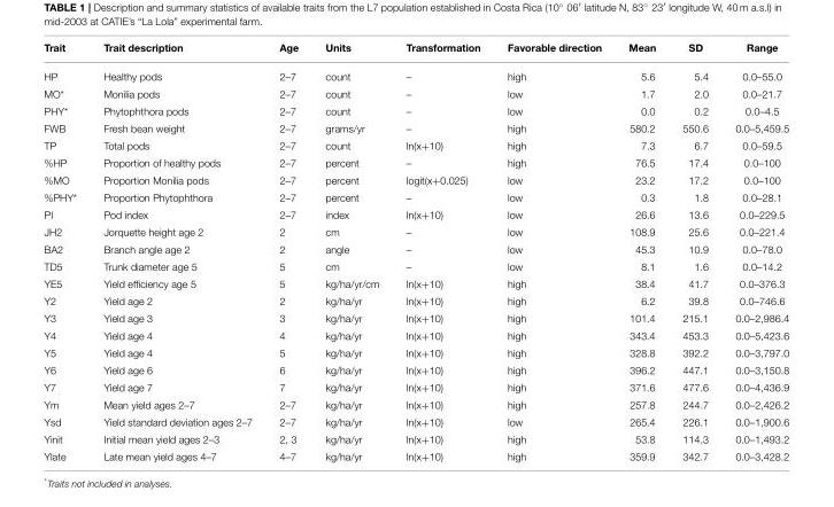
<table><thead><tr><td>Trait</td><td>Trait description</td><td>Age</td><td>Units</td><td>Transformation</td><td>Favorable direction</td><td>Mean</td><td>SD</td><td>Range</td></tr></thead><tbody><tr><td>HP</td><td>Healthy pods</td><td>2–7</td><td>count</td><td>–</td><td>high</td><td>5.6</td><td>5.4</td><td>0.0–55.0</td></tr><tr><td>MO*</td><td>Monilia pods</td><td>2–7</td><td>count</td><td>–</td><td>low</td><td>1.7</td><td>2.0</td><td>0.0–21.7</td></tr><tr><td>PHY*</td><td>Phytophthora pods</td><td>2–7</td><td>count</td><td>–</td><td>low</td><td>0.0</td><td>0.2</td><td>0.0–4.5</td></tr><tr><td>FWB</td><td>Fresh bean weight</td><td>2–7</td><td>grams/yr</td><td>–</td><td>high</td><td>580.2</td><td>550.6</td><td>0.0–5,459.5</td></tr><tr><td>TP</td><td>Total pods</td><td>2–7</td><td>count</td><td>ln(x+10)</td><td>high</td><td>7.3</td><td>6.7</td><td>0.0–59.5</td></tr><tr><td>%HP</td><td>Proportion of healthy pods</td><td>2–7</td><td>percent</td><td>–</td><td>high</td><td>76.5</td><td>17.4</td><td>0.0–100</td></tr><tr><td>%MO</td><td>Proportion Monilia pods</td><td>2–7</td><td>percent</td><td>logit(x+0.025)</td><td>low</td><td>23.2</td><td>17.2</td><td>0.0–100</td></tr><tr><td>%PHY*</td><td>Proportion Phytophthora</td><td>2–7</td><td>percent</td><td>–</td><td>low</td><td>0.3</td><td>1.8</td><td>0.0–28.1</td></tr><tr><td>PI</td><td>Pod index</td><td>2–7</td><td>index</td><td>ln(x+10)</td><td>low</td><td>26.6</td><td>13.6</td><td>0.0–229.5</td></tr><tr><td>JH2</td><td>Jorquette height age 2</td><td>2</td><td>cm</td><td>–</td><td>low</td><td>108.9</td><td>25.6</td><td>0.0–221.4</td></tr><tr><td>BA2</td><td>Branch angle age 2</td><td>2</td><td>angle</td><td>–</td><td>low</td><td>45.3</td><td>10.9</td><td>0.0–78.0</td></tr><tr><td>TD5</td><td>Trunk diameter age 5</td><td>5</td><td>cm</td><td>–</td><td>low</td><td>8.1</td><td>1.6</td><td>0.0–14.2</td></tr><tr><td>YE5</td><td>Yield efficiency age 5</td><td>5</td><td>kg/ha/yr/cm</td><td>ln(x+10)</td><td>high</td><td>38.4</td><td>41.7</td><td>0.0–376.3</td></tr><tr><td>Y2</td><td>Yield age 2</td><td>2</td><td>kg/ha/yr</td><td>ln(x+10)</td><td>high</td><td>6.2</td><td>39.8</td><td>0.0–746.6</td></tr><tr><td>Y3</td><td>Yield age 3</td><td>3</td><td>kg/ha/yr</td><td>ln(x+10)</td><td>high</td><td>101.4</td><td>215.1</td><td>0.0–2,986.4</td></tr><tr><td>Y4</td><td>Yield age 4</td><td>4</td><td>kg/ha/yr</td><td>ln(x+10)</td><td>high</td><td>343.4</td><td>453.3</td><td>0.0–5,423.6</td></tr><tr><td>Y5</td><td>Yield age 4</td><td>5</td><td>kg/ha/yr</td><td>ln(x+10)</td><td>high</td><td>328.8</td><td>392.2</td><td>0.0–3,797.0</td></tr><tr><td>Y6</td><td>Yield age 6</td><td>6</td><td>kg/ha/yr</td><td>ln(x+10)</td><td>high</td><td>396.2</td><td>447.1</td><td>0.0–3,150.8</td></tr><tr><td>Y7</td><td>Yield age 7</td><td>7</td><td>kg/ha/yr</td><td>ln(x+10)</td><td>high</td><td>371.6</td><td>477.6</td><td>0.0–4,436.9</td></tr><tr><td>Ym</td><td>Mean yield ages 2–7</td><td>2–7</td><td>kg/ha/yr</td><td>ln(x+10)</td><td>high</td><td>257.8</td><td>244.7</td><td>0.0–2,426.2</td></tr><tr><td>Ysd</td><td>Yield standard deviation ages 2–7</td><td>2–7</td><td>kg/ha/yr</td><td>ln(x+10)</td><td>low</td><td>265.4</td><td>226.1</td><td>0.0–1,900.6</td></tr><tr><td>Yinit</td><td>Initial mean yield ages 2–3</td><td>2, 3</td><td>kg/ha/yr</td><td>ln(x+10)</td><td>high</td><td>53.8</td><td>114.3</td><td>0.0–1,493.2</td></tr><tr><td>Ylate</td><td>Late mean yield ages 4–7</td><td>4–7</td><td>kg/ha/yr</td><td>ln(x+10)</td><td>high</td><td>359.9</td><td>342.7</td><td>0.0–3,428.2</td></tr></tbody></table>